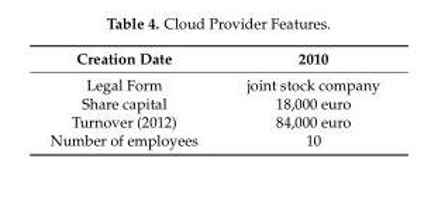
<table><thead><tr><td>Creation Date</td><td>2010</td></tr></thead><tbody><tr><td>Legal Form</td><td>joint stock company</td></tr><tr><td>Share capital</td><td>18,000 euro</td></tr><tr><td>Turnover (2012)</td><td>84,000 euro</td></tr><tr><td>Number of employees</td><td>10</td></tr></tbody></table>